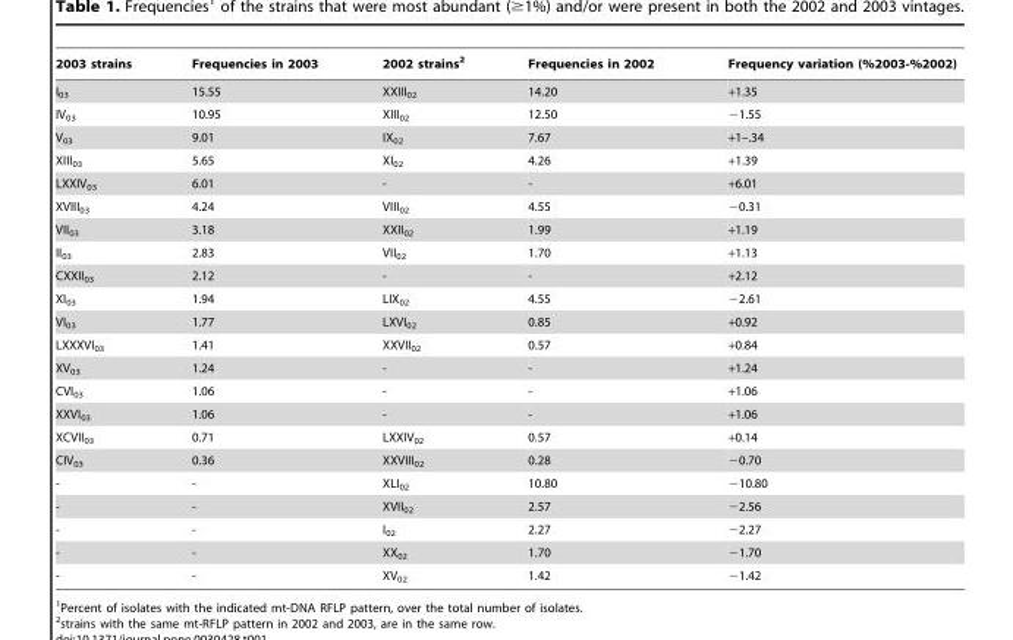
<table><thead><tr><td>2003 strains</td><td>Frequencies in 2003</td><td>2002 strains<sup>2</sup></td><td>Frequencies in 2002</td><td>Frequency variation (%2003-%2002)</td></tr></thead><tbody><tr><td>I<sub>03</sub></td><td>15.55</td><td>XXIII<sub>02</sub></td><td>14.20</td><td>+1.35</td></tr><tr><td>IV<sub>03</sub></td><td>10.95</td><td>XIII<sub>02</sub></td><td>12.50</td><td>−1.55</td></tr><tr><td>V<sub>03</sub></td><td>9.01</td><td>IX<sub>02</sub></td><td>7.67</td><td>+1–.34</td></tr><tr><td>XIII<sub>03</sub></td><td>5.65</td><td>XI<sub>02</sub></td><td>4.26</td><td>+1.39</td></tr><tr><td>LXXIV<sub>03</sub></td><td>6.01</td><td>-</td><td>-</td><td>+6.01</td></tr><tr><td>XVIII<sub>03</sub></td><td>4.24</td><td>VIII<sub>02</sub></td><td>4.55</td><td>−0.31</td></tr><tr><td>VII<sub>03</sub></td><td>3.18</td><td>XXII<sub>02</sub></td><td>1.99</td><td>+1.19</td></tr><tr><td>II<sub>03</sub></td><td>2.83</td><td>VII<sub>02</sub></td><td>1.70</td><td>+1.13</td></tr><tr><td>CXXII<sub>03</sub></td><td>2.12</td><td>-</td><td>-</td><td>+2.12</td></tr><tr><td>XI<sub>03</sub></td><td>1.94</td><td>LIX<sub>02</sub></td><td>4.55</td><td>−2.61</td></tr><tr><td>VI<sub>03</sub></td><td>1.77</td><td>LXVI<sub>02</sub></td><td>0.85</td><td>+0.92</td></tr><tr><td>LXXXVI<sub>03</sub></td><td>1.41</td><td>XXVII<sub>02</sub></td><td>0.57</td><td>+0.84</td></tr><tr><td>XV<sub>03</sub></td><td>1.24</td><td>-</td><td>-</td><td>+1.24</td></tr><tr><td>CVI<sub>03</sub></td><td>1.06</td><td>-</td><td>-</td><td>+1.06</td></tr><tr><td>XXVI<sub>03</sub></td><td>1.06</td><td>-</td><td>-</td><td>+1.06</td></tr><tr><td>XCVII<sub>03</sub></td><td>0.71</td><td>LXXIV<sub>02</sub></td><td>0.57</td><td>+0.14</td></tr><tr><td>CIV<sub>03</sub></td><td>0.36</td><td>XXVIII<sub>02</sub></td><td>0.28</td><td>−0.70</td></tr><tr><td>-</td><td>-</td><td>XLI<sub>02</sub></td><td>10.80</td><td>−10.80</td></tr><tr><td>-</td><td>-</td><td>XVII<sub>02</sub></td><td>2.57</td><td>−2.56</td></tr><tr><td>-</td><td>-</td><td>I<sub>02</sub></td><td>2.27</td><td>−2.27</td></tr><tr><td>-</td><td>-</td><td>XX<sub>02</sub></td><td>1.70</td><td>−1.70</td></tr><tr><td>-</td><td>-</td><td>XV<sub>02</sub></td><td>1.42</td><td>−1.42</td></tr></tbody></table>